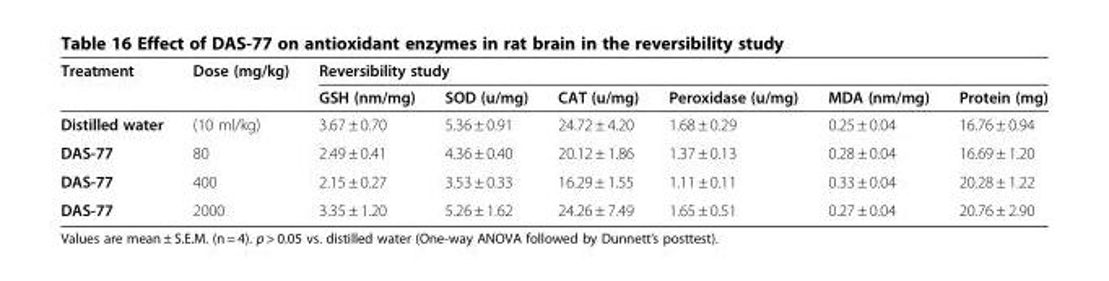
<table><thead><tr><td rowspan="2">Treatment</td><td rowspan="2">Dose (mg/kg)</td><td colspan="6">Reversibility study</td></tr><tr><td>GSH (nm/mg)</td><td>SOD (u/mg)</td><td>CAT (u/mg)</td><td>Peroxidase (u/mg)</td><td>MDA (nm/mg)</td><td>Protein (mg)</td></tr></thead><tbody><tr><td>Distilled water</td><td>(10 ml/kg)</td><td>3.67 ± 0.70</td><td>5.36 ± 0.91</td><td>24.72 ± 4.20</td><td>1.68 ± 0.29</td><td>0.25 ± 0.04</td><td>16.76 ± 0.94</td></tr><tr><td>DAS-77</td><td>80</td><td>2.49 ± 0.41</td><td>4.36 ± 0.40</td><td>20.12 ± 1.86</td><td>1.37 ± 0.13</td><td>0.28 ± 0.04</td><td>16.69 ± 1.20</td></tr><tr><td>DAS-77</td><td>400</td><td>2.15 ± 0.27</td><td>3.53 ± 0.33</td><td>16.29 ± 1.55</td><td>1.11 ± 0.11</td><td>0.33 ± 0.04</td><td>20.28 ± 1.22</td></tr><tr><td>DAS-77</td><td>2000</td><td>3.35 ± 1.20</td><td>5.26 ± 1.62</td><td>24.26 ± 7.49</td><td>1.65 ± 0.51</td><td>0.27 ± 0.04</td><td>20.76 ± 2.90</td></tr></tbody></table>